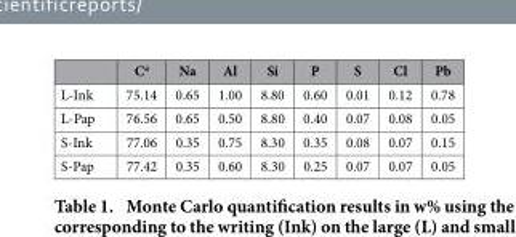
<table><thead><tr><td></td><td>C<sup>a</sup></td><td>Na</td><td>Al</td><td>Si</td><td>P</td><td>S</td><td>Cl</td><td>Pb</td></tr></thead><tbody><tr><td>L-Ink</td><td>75.14</td><td>0.65</td><td>1.00</td><td>8.80</td><td>0.60</td><td>0.01</td><td>0.12</td><td>0.78</td></tr><tr><td>L-Pap</td><td>76.56</td><td>0.65</td><td>0.50</td><td>8.80</td><td>0.40</td><td>0.07</td><td>0.08</td><td>0.05</td></tr><tr><td>S-Ink</td><td>77.06</td><td>0.35</td><td>0.75</td><td>8.30</td><td>0.35</td><td>0.08</td><td>0.07</td><td>0.15</td></tr><tr><td>S-Pap</td><td>77.42</td><td>0.35</td><td>0.60</td><td>8.30</td><td>0.25</td><td>0.07</td><td>0.07</td><td>0.05</td></tr></tbody></table>